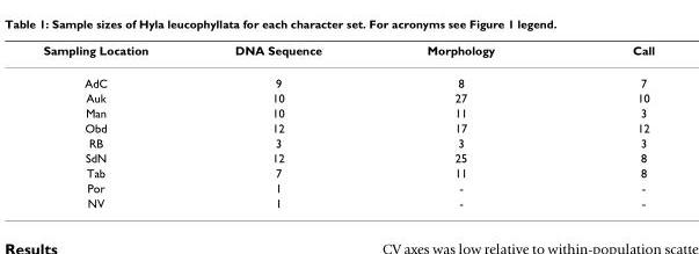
<table><thead><tr><td>Sampling Location</td><td>DNA Sequence</td><td>Morphology</td><td>Call</td></tr></thead><tbody><tr><td>AdC</td><td>9</td><td>8</td><td>7</td></tr><tr><td>Auk</td><td>10</td><td>27</td><td>10</td></tr><tr><td>Man</td><td>10</td><td>11</td><td>3</td></tr><tr><td>Obd</td><td>12</td><td>17</td><td>12</td></tr><tr><td>RB</td><td>3</td><td>3</td><td>3</td></tr><tr><td>SdN</td><td>12</td><td>25</td><td>8</td></tr><tr><td>Tab</td><td>7</td><td>11</td><td>8</td></tr><tr><td>Por</td><td>1</td><td>-</td><td>-</td></tr><tr><td>NV</td><td>1</td><td>-</td><td>-</td></tr></tbody></table>